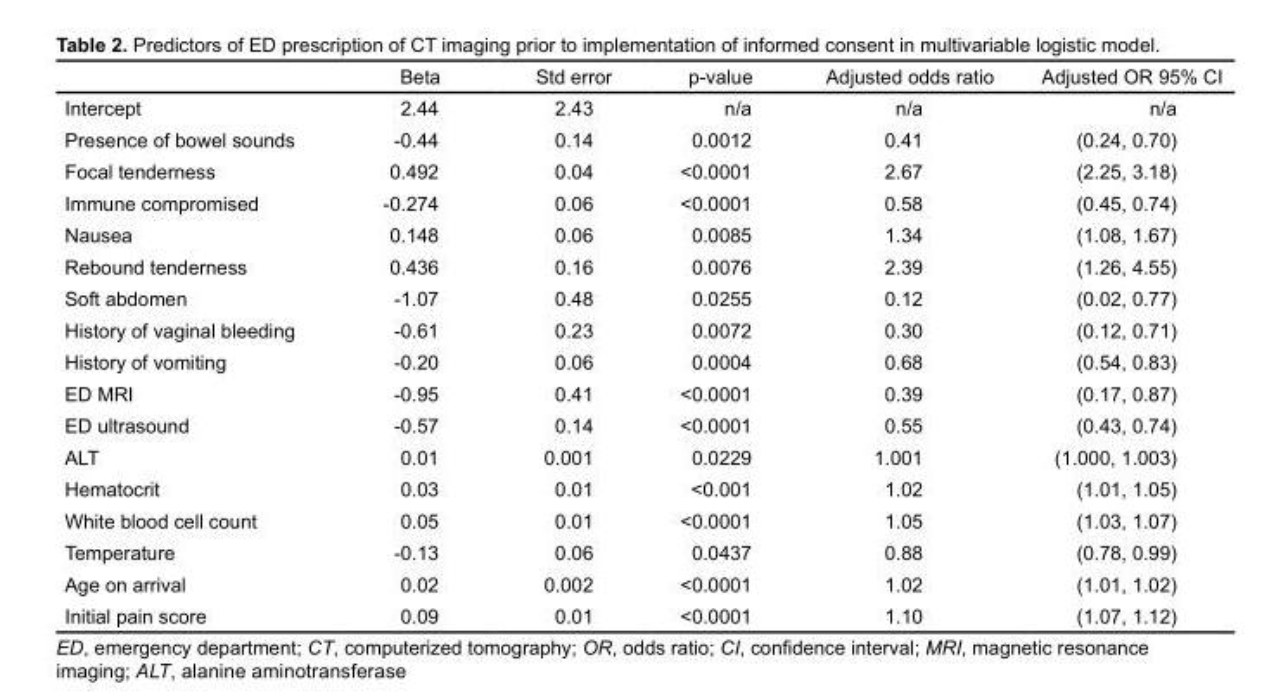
<table><thead><tr><td></td><td>Beta</td><td>Std error</td><td>p-value</td><td>Adjusted odds ratio</td><td>Adjusted OR 95% CI</td></tr></thead><tbody><tr><td>Intercept</td><td>2.44</td><td>2.43</td><td>n/a</td><td>n/a</td><td>n/a</td></tr><tr><td>Presence of bowel sounds</td><td>-0.44</td><td>0.14</td><td>0.0012</td><td>0.41</td><td>(0.24, 0.70)</td></tr><tr><td>Focal tenderness</td><td>0.492</td><td>0.04</td><td>&lt;0.0001</td><td>2.67</td><td>(2.25, 3.18)</td></tr><tr><td>Immune compromised</td><td>-0.274</td><td>0.06</td><td>&lt;0.0001</td><td>0.58</td><td>(0.45, 0.74)</td></tr><tr><td>Nausea</td><td>0.148</td><td>0.06</td><td>0.0085</td><td>1.34</td><td>(1.08, 1.67)</td></tr><tr><td>Rebound tenderness</td><td>0.436</td><td>0.16</td><td>0.0076</td><td>2.39</td><td>(1.26, 4.55)</td></tr><tr><td>Soft abdomen</td><td>-1.07</td><td>0.48</td><td>0.0255</td><td>0.12</td><td>(0.02, 0.77)</td></tr><tr><td>History of vaginal bleeding</td><td>-0.61</td><td>0.23</td><td>0.0072</td><td>0.30</td><td>(0.12, 0.71)</td></tr><tr><td>History of vomiting</td><td>-0.20</td><td>0.06</td><td>0.0004</td><td>0.68</td><td>(0.54, 0.83)</td></tr><tr><td>ED MRI</td><td>-0.95</td><td>0.41</td><td>&lt;0.0001</td><td>0.39</td><td>(0.17, 0.87)</td></tr><tr><td>ED ultrasound</td><td>-0.57</td><td>0.14</td><td>&lt;0.0001</td><td>0.55</td><td>(0.43, 0.74)</td></tr><tr><td>ALT</td><td>0.01</td><td>0.001</td><td>0.0229</td><td>1.001</td><td>(1.000, 1.003)</td></tr><tr><td>Hematocrit</td><td>0.03</td><td>0.01</td><td>&lt;0.001</td><td>1.02</td><td>(1.01, 1.05)</td></tr><tr><td>White blood cell count</td><td>0.05</td><td>0.01</td><td>&lt;0.0001</td><td>1.05</td><td>(1.03, 1.07)</td></tr><tr><td>Temperature</td><td>-0.13</td><td>0.06</td><td>0.0437</td><td>0.88</td><td>(0.78, 0.99)</td></tr><tr><td>Age on arrival</td><td>0.02</td><td>0.002</td><td>&lt;0.0001</td><td>1.02</td><td>(1.01, 1.02)</td></tr><tr><td>Initial pain score</td><td>0.09</td><td>0.01</td><td>&lt;0.0001</td><td>1.10</td><td>(1.07, 1.12)</td></tr></tbody></table>